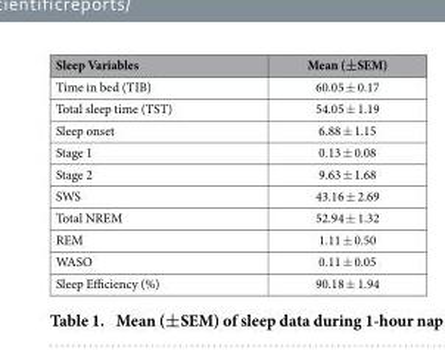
<table><thead><tr><td>Sleep Variables</td><td>Mean (±SEM)</td></tr></thead><tbody><tr><td>Time in bed (TIB)</td><td>60.05 ± 0.17</td></tr><tr><td>Total sleep time (TST)</td><td>54.05 ± 1.19</td></tr><tr><td>Sleep onset</td><td>6.88 ± 1.15</td></tr><tr><td>Stage 1</td><td>0.13 ± 0.08</td></tr><tr><td>Stage 2</td><td>9.63 ± 1.68</td></tr><tr><td>SWS</td><td>43.16 ± 2.69</td></tr><tr><td>Total NREM</td><td>52.94 ± 1.32</td></tr><tr><td>REM</td><td>1.11 ± 0.50</td></tr><tr><td>WASO</td><td>0.11 ± 0.05</td></tr><tr><td>Sleep Efficiency (%)</td><td>90.18 ± 1.94</td></tr></tbody></table>